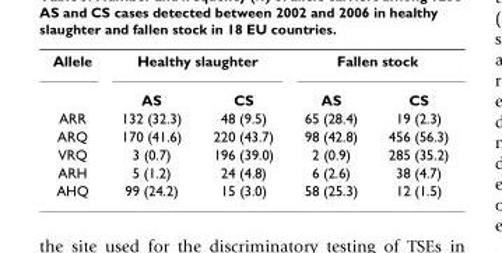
<table><tbody><tr><td rowspan="2">Allele</td><td colspan="2">Healthy slaughter</td><td colspan="2">Fallen stock</td></tr><tr><td>AS</td><td>CS</td><td>AS</td><td>CS</td></tr><tr><td>ARR</td><td>132 (32.3)</td><td>48 (9.5)</td><td>65 (28.4)</td><td>19 (2.3)</td></tr><tr><td>ARQ</td><td>170 (41.6)</td><td>220 (43.7)</td><td>98 (42.8)</td><td>456 (56.3)</td></tr><tr><td>VRQ</td><td>3 (0.7)</td><td>196 (39.0)</td><td>2 (0.9)</td><td>285 (35.2)</td></tr><tr><td>ARH</td><td>5 (1.2)</td><td>24 (4.8)</td><td>6 (2.6)</td><td>38 (4.7)</td></tr><tr><td>AHQ</td><td>99 (24.2)</td><td>15 (3.0)</td><td>58 (25.3)</td><td>12 (1.5)</td></tr></tbody></table>